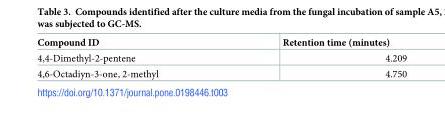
<table><thead><tr><td>Compound ID</td><td>Retention time (minutes)</td></tr></thead><tbody><tr><td>4,4-Dimethyl-2-pentene</td><td>4.209</td></tr><tr><td>4,6-Octadiyn-3-one, 2-methyl</td><td>4.750</td></tr></tbody></table>